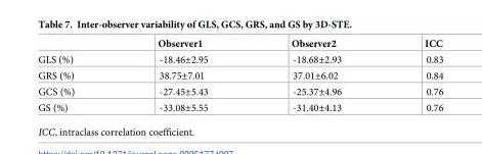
<table><thead><tr><td></td><td>Observer1</td><td>Observer2</td><td>ICC</td></tr></thead><tbody><tr><td>GLS (%)</td><td>-18.46±2.95</td><td>-18.68±2.93</td><td>0.83</td></tr><tr><td>GRS (%)</td><td>38.75±7.01</td><td>37.01±6.02</td><td>0.84</td></tr><tr><td>GCS (%)</td><td>-27.45±5.43</td><td>-25.37±4.96</td><td>0.76</td></tr><tr><td>GS (%)</td><td>-33.08±5.55</td><td>-31.40±4.13</td><td>0.76</td></tr></tbody></table>